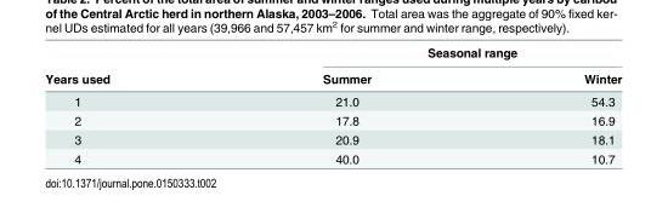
<table><thead><tr><td rowspan="2">Years used</td><td colspan="2">Seasonal range</td></tr><tr><td>Summer</td><td>Winter</td></tr></thead><tbody><tr><td>1</td><td>21.0</td><td>54.3</td></tr><tr><td>2</td><td>17.8</td><td>16.9</td></tr><tr><td>3</td><td>20.9</td><td>18.1</td></tr><tr><td>4</td><td>40.0</td><td>10.7</td></tr></tbody></table>